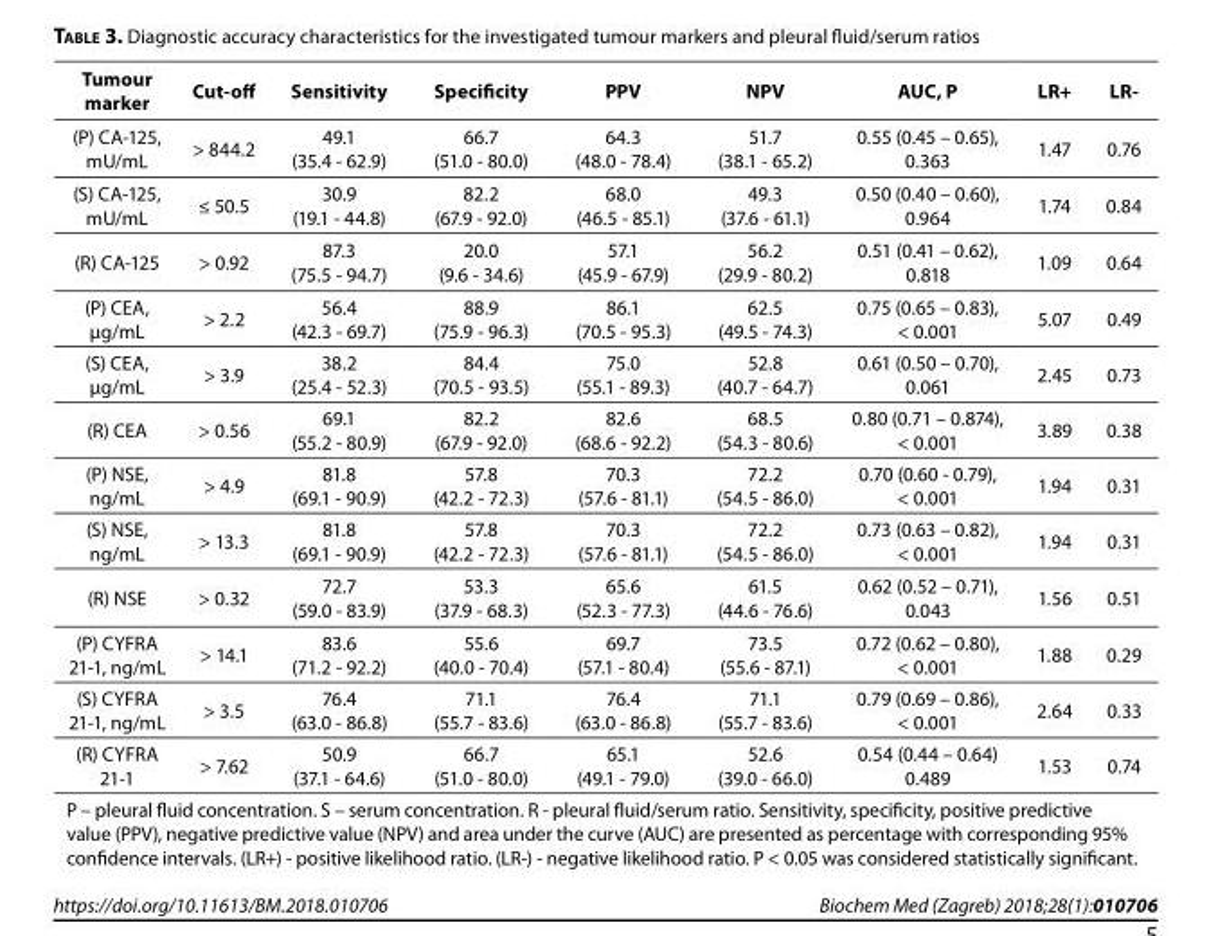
<table><thead><tr><td>Tumour marker</td><td>Cut-off</td><td>Sensitivity</td><td>Specificity</td><td>PPV</td><td>NPV</td><td>AUC, P</td><td>LR+</td><td>LR-</td></tr></thead><tbody><tr><td>(P) CA-125, mU/mL</td><td>&gt; 844.2</td><td>49.1 (35.4 - 62.9)</td><td>66.7 (51.0 - 80.0)</td><td>64.3 (48.0 - 78.4)</td><td>51.7 (38.1 - 65.2)</td><td>0.55 (0.45 – 0.65), 0.363</td><td>1.47</td><td>0.76</td></tr><tr><td>(S) CA-125, mU/mL</td><td>≤ 50.5</td><td>30.9 (19.1 - 44.8)</td><td>82.2 (67.9 - 92.0)</td><td>68.0 (46.5 - 85.1)</td><td>49.3 (37.6 - 61.1)</td><td>0.50 (0.40 – 0.60), 0.964</td><td>1.74</td><td>0.84</td></tr><tr><td>(R) CA-125</td><td>&gt; 0.92</td><td>87.3 (75.5 - 94.7)</td><td>20.0 (9.6 - 34.6)</td><td>57.1 (45.9 - 67.9)</td><td>56.2 (29.9 - 80.2)</td><td>0.51 (0.41 – 0.62), 0.818</td><td>1.09</td><td>0.64</td></tr><tr><td>(P) CEA, µg/mL</td><td>&gt; 2.2</td><td>56.4 (42.3 - 69.7)</td><td>88.9 (75.9 - 96.3)</td><td>86.1 (70.5 - 95.3)</td><td>62.5 (49.5 - 74.3)</td><td>0.75 (0.65 – 0.83), &lt; 0.001</td><td>5.07</td><td>0.49</td></tr><tr><td>(S) CEA, µg/mL</td><td>&gt; 3.9</td><td>38.2 (25.4 - 52.3)</td><td>84.4 (70.5 - 93.5)</td><td>75.0 (55.1 - 89.3)</td><td>52.8 (40.7 - 64.7)</td><td>0.61 (0.50 – 0.70), 0.061</td><td>2.45</td><td>0.73</td></tr><tr><td>(R) CEA</td><td>&gt; 0.56</td><td>69.1 (55.2 - 80.9)</td><td>82.2 (67.9 - 92.0)</td><td>82.6 (68.6 - 92.2)</td><td>68.5 (54.3 - 80.6)</td><td>0.80 (0.71 – 0.874), &lt; 0.001</td><td>3.89</td><td>0.38</td></tr><tr><td>(P) NSE, ng/mL</td><td>&gt; 4.9</td><td>81.8 (69.1 - 90.9)</td><td>57.8 (42.2 - 72.3)</td><td>70.3 (57.6 - 81.1)</td><td>72.2 (54.5 - 86.0)</td><td>0.70 (0.60 - 0.79), &lt; 0.001</td><td>1.94</td><td>0.31</td></tr><tr><td>(S) NSE, ng/mL</td><td>&gt; 13.3</td><td>81.8 (69.1 - 90.9)</td><td>57.8 (42.2 - 72.3)</td><td>70.3 (57.6 - 81.1)</td><td>72.2 (54.5 - 86.0)</td><td>0.73 (0.63 – 0.82), &lt; 0.001</td><td>1.94</td><td>0.31</td></tr><tr><td>(R) NSE</td><td>&gt; 0.32</td><td>72.7 (59.0 - 83.9)</td><td>53.3 (37.9 - 68.3)</td><td>65.6 (52.3 - 77.3)</td><td>61.5 (44.6 - 76.6)</td><td>0.62 (0.52 – 0.71), 0.043</td><td>1.56</td><td>0.51</td></tr><tr><td>(P) CYFRA 21-1, ng/mL</td><td>&gt; 14.1</td><td>83.6 (71.2 - 92.2)</td><td>55.6 (40.0 - 70.4)</td><td>69.7 (57.1 - 80.4)</td><td>73.5 (55.6 - 87.1)</td><td>0.72 (0.62 – 0.80), &lt; 0.001</td><td>1.88</td><td>0.29</td></tr><tr><td>(S) CYFRA 21-1, ng/mL</td><td>&gt; 3.5</td><td>76.4 (63.0 - 86.8)</td><td>71.1 (55.7 - 83.6)</td><td>76.4 (63.0 - 86.8)</td><td>71.1 (55.7 - 83.6)</td><td>0.79 (0.69 – 0.86), &lt; 0.001</td><td>2.64</td><td>0.33</td></tr><tr><td>(R) CYFRA 21-1</td><td>&gt; 7.62</td><td>50.9 (37.1 - 64.6)</td><td>66.7 (51.0 - 80.0)</td><td>65.1 (49.1 - 79.0)</td><td>52.6 (39.0 - 66.0)</td><td>0.54 (0.44 – 0.64) 0.489</td><td>1.53</td><td>0.74</td></tr><tr><td colspan="9">P – pleural fluid concentration. S – serum concentration. R - pleural fluid/serum ratio. Sensitivity, specificity, positive predictive value (PPV), negative predictive value (NPV) and area under the curve (AUC) are presented as percentage with corresponding 95% confidence intervals. (LR+) - positive likelihood ratio. (LR-) - negative likelihood ratio. P &lt; 0.05 was considered statistically significant.</td></tr></tbody></table>